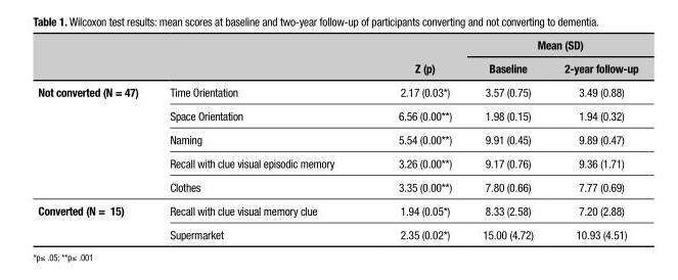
<table><thead><tr><td rowspan="2"></td><td rowspan="2"></td><td rowspan="2">Z (p)</td><td colspan="2">Mean (SD)</td></tr><tr><td>Baseline</td><td>2-year follow-up</td></tr></thead><tbody><tr><td rowspan="5">Not converted (N = 47)</td><td>Time Orientation</td><td>2.17 (0.03*)</td><td>3.57 (0.75)</td><td>3.49 (0.88)</td></tr><tr><td>Space Orientation</td><td>6.56 (0.00**)</td><td>1.98 (0.15)</td><td>1.94 (0.32)</td></tr><tr><td>Naming</td><td>5.54 (0.00**)</td><td>9.91 (0.45)</td><td>9.89 (0.47)</td></tr><tr><td>Recall with clue visual episodic memory</td><td>3.26 (0.00**)</td><td>9.17 (0.76)</td><td>9.36 (1.71)</td></tr><tr><td>Clothes</td><td>3.35 (0.00**)</td><td>7.80 (0.66)</td><td>7.77 (0.69)</td></tr><tr><td rowspan="2">Converted (N = 15)</td><td>Recall with clue visual memory clue</td><td>1.94 (0.05*)</td><td>8.33 (2.58)</td><td>7.20 (2.88)</td></tr><tr><td>Supermarket</td><td>2.35 (0.02*)</td><td>15.00 (4.72)</td><td>10.93 (4.51)</td></tr></tbody></table>